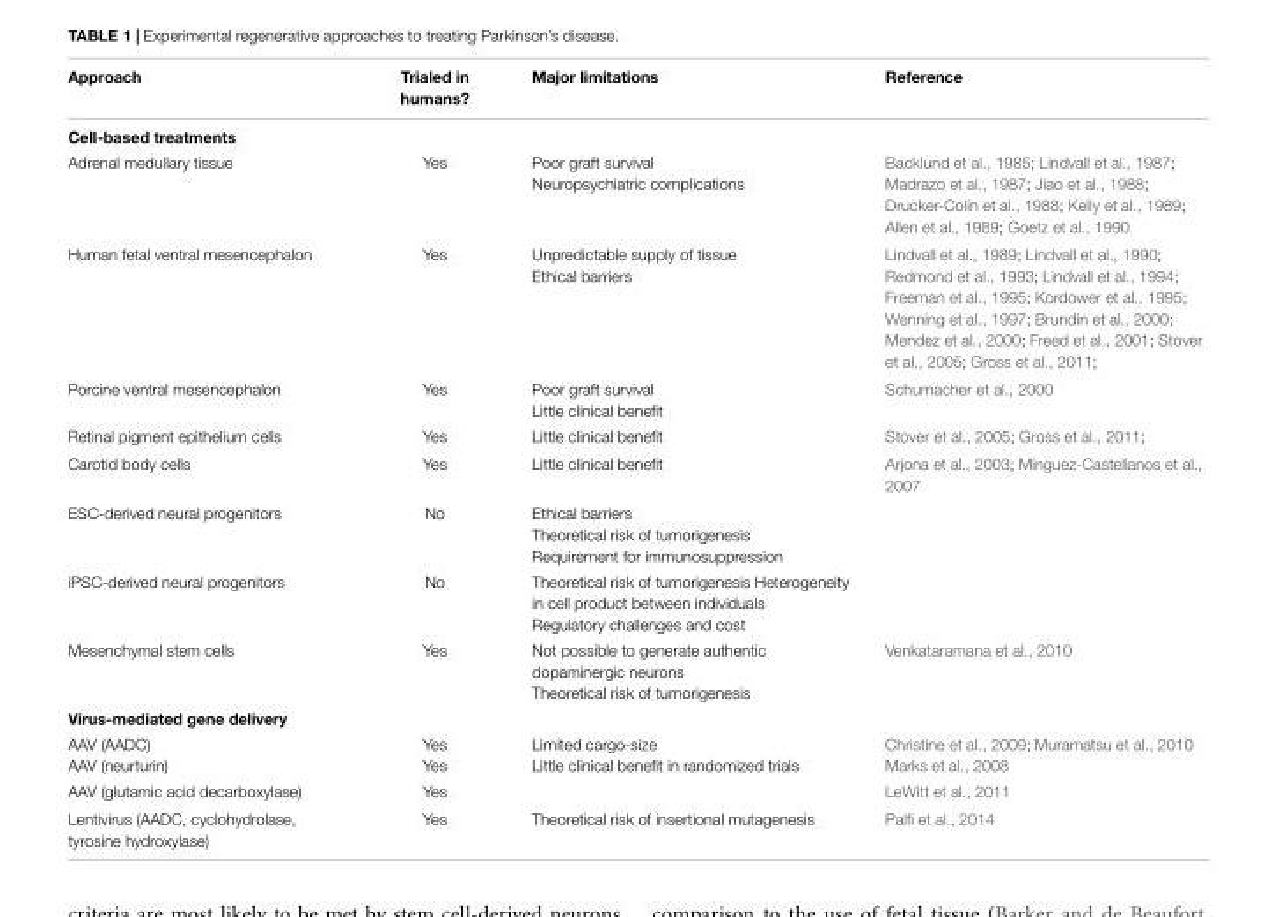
<table><thead><tr><td>Approach</td><td>Trialed in humans?</td><td>Major limitations</td><td>Reference</td></tr></thead><tbody><tr><td colspan="4">Cell-based treatments</td></tr><tr><td>Adrenal medullary tissue</td><td>Yes</td><td>Poor graft survival Neuropsychiatric complications</td><td>Backlund et al., 1985; Lindvall et al., 1987; Madrazo et al., 1987; Jiao et al., 1988; Drucker-Colín et al., 1988; Kelly et al., 1989; Allen et al., 1989; Goetz et al., 1990</td></tr><tr><td>Human fetal ventral mesencephalon</td><td>Yes</td><td>Unpredictable supply of tissue Ethical barriers</td><td>Lindvall et al., 1989; Lindvall et al., 1990; Redmond et al., 1993; Lindvall et al., 1994; Freeman et al., 1995; Kordower et al., 1995; Wenning et al., 1997; Brundin et al., 2000; Mendez et al., 2000; Freed et al., 2001; Stover et al., 2005; Gross et al., 2011;</td></tr><tr><td>Porcine ventral mesencephalon</td><td>Yes</td><td>Poor graft survival Little clinical benefit</td><td>Schumacher et al., 2000</td></tr><tr><td>Retinal pigment epithelium cells</td><td>Yes</td><td>Little clinical benefit</td><td>Stover et al., 2005; Gross et al., 2011;</td></tr><tr><td>Carotid body cells</td><td>Yes</td><td>Little clinical benefit</td><td>Arjona et al., 2003; Mínguez-Castellanos et al., 2007</td></tr><tr><td>ESC-derived neural progenitors</td><td>No</td><td>Ethical barriers Theoretical risk of tumorigenesis Requirement for immunosuppression</td><td></td></tr><tr><td>iPSC-derived neural progenitors</td><td>No</td><td>Theoretical risk of tumorigenesis Heterogeneity in cell product between individuals Regulatory challenges and cost</td><td></td></tr><tr><td>Mesenchymal stem cells</td><td>Yes</td><td>Not possible to generate authentic dopaminergic neurons Theoretical risk of tumorigenesis</td><td>Venkataramana et al., 2010</td></tr><tr><td colspan="4">Virus-mediated gene delivery</td></tr><tr><td>AAV (AADC) AAV (neurturin)</td><td>Yes Yes</td><td>Limited cargo-size Little clinical benefit in randomized trials</td><td>Christine et al., 2009; Muramatsu et al., 2010 Marks et al., 2008</td></tr><tr><td>AAV (glutamic acid decarboxylase)</td><td>Yes</td><td></td><td>LeWitt et al., 2011</td></tr><tr><td>Lentivirus (AADC, cyclohydrolase, tyrosine hydroxylase)</td><td>Yes</td><td>Theoretical risk of insertional mutagenesis</td><td>Palfi et al., 2014</td></tr></tbody></table>